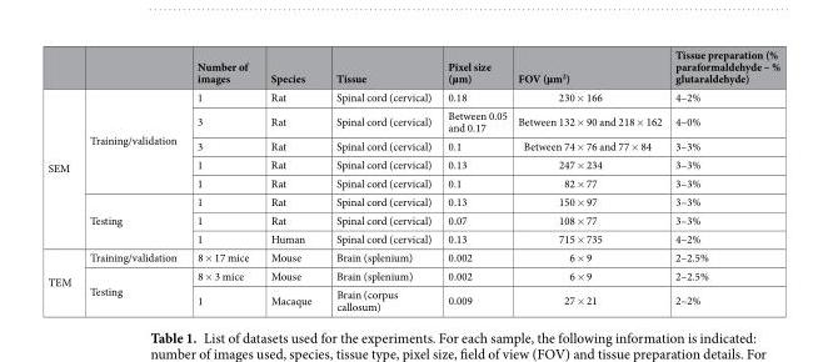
<table><thead><tr><td></td><td></td><td>Number of images</td><td>Species</td><td>Tissue</td><td>Pixel size (µm)</td><td>FOV (µm<sup>2</sup>)</td><td>Tissue preparation (% paraformaldehyde – % glutaraldehyde)</td></tr></thead><tbody><tr><td rowspan="8">SEM</td><td rowspan="5">Training/validation</td><td>1</td><td>Rat</td><td>Spinal cord (cervical)</td><td>0.18</td><td>230 × 166</td><td>4–2%</td></tr><tr><td>3</td><td>Rat</td><td>Spinal cord (cervical)</td><td>Between 0.05 and 0.17</td><td>Between 132 × 90 and 218 × 162</td><td>4–0%</td></tr><tr><td>3</td><td>Rat</td><td>Spinal cord (cervical)</td><td>0.1</td><td>Between 74 × 76 and 77 × 84</td><td>3–3%</td></tr><tr><td>1</td><td>Rat</td><td>Spinal cord (cervical)</td><td>0.13</td><td>247 × 234</td><td>3–3%</td></tr><tr><td>1</td><td>Rat</td><td>Spinal cord (cervical)</td><td>0.1</td><td>82 × 77</td><td>3–3%</td></tr><tr><td rowspan="3">Testing</td><td>1</td><td>Rat</td><td>Spinal cord (cervical)</td><td>0.13</td><td>150 × 97</td><td>3–3%</td></tr><tr><td>1</td><td>Rat</td><td>Spinal cord (cervical)</td><td>0.07</td><td>108 × 77</td><td>3–3%</td></tr><tr><td>1</td><td>Human</td><td>Spinal cord (cervical)</td><td>0.13</td><td>715 × 735</td><td>4–2%</td></tr><tr><td rowspan="3">TEM</td><td>Training/validation</td><td>8 × 17 mice</td><td>Mouse</td><td>Brain (splenium)</td><td>0.002</td><td>6 × 9</td><td>2–2.5%</td></tr><tr><td rowspan="2">Testing</td><td>8 × 3 mice</td><td>Mouse</td><td>Brain (splenium)</td><td>0.002</td><td>6 × 9</td><td>2–2.5%</td></tr><tr><td>1</td><td>Macaque</td><td>Brain (corpus callosum)</td><td>0.009</td><td>27 × 21</td><td>2–2%</td></tr></tbody></table>